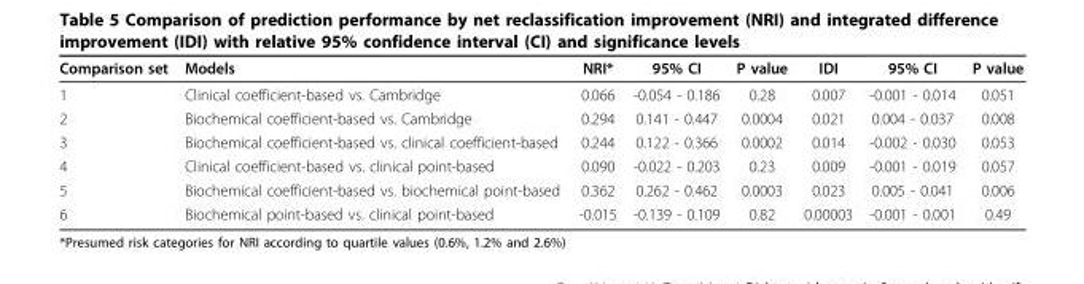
<table><thead><tr><td>Comparison set</td><td>Models</td><td>NRI*</td><td>95% CI</td><td>P value</td><td>IDI</td><td>95% CI</td><td>P value</td></tr></thead><tbody><tr><td>1</td><td>Clinical coefficient-based vs. Cambridge</td><td>0.066</td><td>-0.054 - 0.186</td><td>0.28</td><td>0.007</td><td>-0.001 - 0.014</td><td>0.051</td></tr><tr><td>2</td><td>Biochemical coefficient-based vs. Cambridge</td><td>0.294</td><td>0.141 - 0.447</td><td>0.0004</td><td>0.021</td><td>0.004 - 0.037</td><td>0.008</td></tr><tr><td>3</td><td>Biochemical coefficient-based vs. clinical coefficient-based</td><td>0.244</td><td>0.122 - 0.366</td><td>0.0002</td><td>0.014</td><td>-0.002 - 0.030</td><td>0.053</td></tr><tr><td>4</td><td>Clinical coefficient-based vs. clinical point-based</td><td>0.090</td><td>-0.022 - 0.203</td><td>0.23</td><td>0.009</td><td>-0.001 - 0.019</td><td>0.057</td></tr><tr><td>5</td><td>Biochemical coefficient-based vs. biochemical point-based</td><td>0.362</td><td>0.262 - 0.462</td><td>0.0003</td><td>0.023</td><td>0.005 - 0.041</td><td>0.006</td></tr><tr><td>6</td><td>Biochemical point-based vs. clinical point-based</td><td>-0.015</td><td>-0.139 - 0.109</td><td>0.82</td><td>0.00003</td><td>-0.001 - 0.001</td><td>0.49</td></tr></tbody></table>